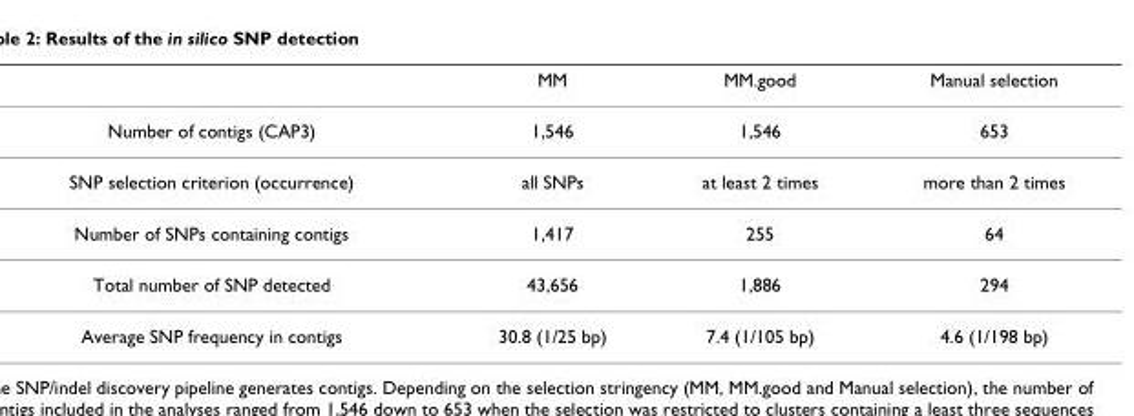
<table><thead><tr><td></td><td>MM</td><td>MM.good</td><td>Manual selection</td></tr></thead><tbody><tr><td>Number of contigs (CAP3)</td><td>1,546</td><td>1,546</td><td>653</td></tr><tr><td>SNP selection criterion (occurrence)</td><td>all SNPs</td><td>at least 2 times</td><td>more than 2 times</td></tr><tr><td>Number of SNPs containing contigs</td><td>1,417</td><td>255</td><td>64</td></tr><tr><td>Total number of SNP detected</td><td>43,656</td><td>1,886</td><td>294</td></tr><tr><td>Average SNP frequency in contigs</td><td>30.8 (1/25 bp)</td><td>7.4 (1/105 bp)</td><td>4.6 (1/198 bp)</td></tr></tbody></table>